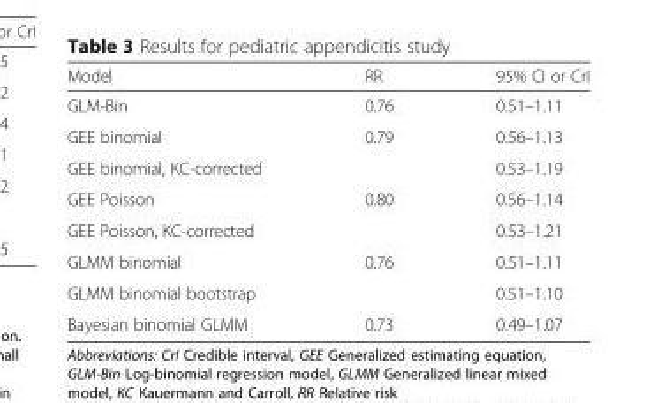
<table><thead><tr><td>Model</td><td>RR</td><td>95% CI or CrI</td></tr></thead><tbody><tr><td>GLM-Bin</td><td>0.76</td><td>0.51–1.11</td></tr><tr><td>GEE binomial</td><td>0.79</td><td>0.56–1.13</td></tr><tr><td>GEE binomial, KC-corrected</td><td></td><td>0.53–1.19</td></tr><tr><td>GEE Poisson</td><td>0.80</td><td>0.56–1.14</td></tr><tr><td>GEE Poisson, KC-corrected</td><td></td><td>0.53–1.21</td></tr><tr><td>GLMM binomial</td><td>0.76</td><td>0.51–1.11</td></tr><tr><td>GLMM binomial bootstrap</td><td></td><td>0.51–1.10</td></tr><tr><td>Bayesian binomial GLMM</td><td>0.73</td><td>0.49–1.07</td></tr></tbody></table>